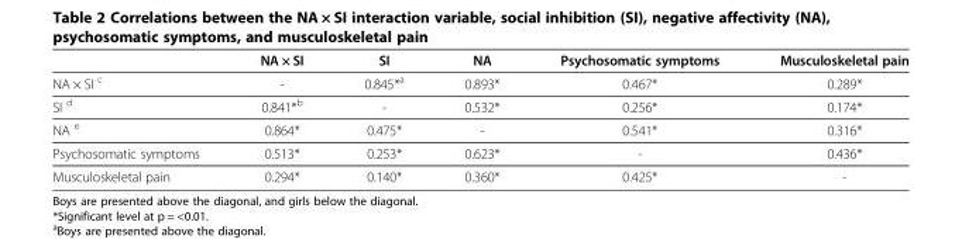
<table><thead><tr><td></td><td>NA × SI</td><td>SI</td><td>NA</td><td>Psychosomatic symptoms</td><td>Musculoskeletal pain</td></tr></thead><tbody><tr><td>NA × SI <sup>c</sup></td><td>-</td><td>0.845*<sup>a</sup></td><td>0.893*</td><td>0.467*</td><td>0.289*</td></tr><tr><td>SI <sup>d</sup></td><td>0.841*<sup>b</sup></td><td>-</td><td>0.532*</td><td>0.256*</td><td>0.174*</td></tr><tr><td>NA <sup>e</sup></td><td>0.864*</td><td>0.475*</td><td>-</td><td>0.541*</td><td>0.316*</td></tr><tr><td>Psychosomatic symptoms</td><td>0.513*</td><td>0.253*</td><td>0.623*</td><td>-</td><td>0.436*</td></tr><tr><td>Musculoskeletal pain</td><td>0.294*</td><td>0.140*</td><td>0.360*</td><td>0.425*</td><td>-</td></tr></tbody></table>